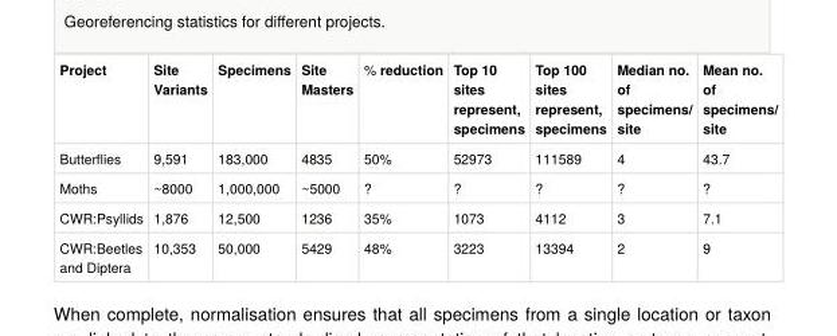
<table><tbody><tr><td>Project</td><td>Site Variants</td><td>Specimens</td><td>Site Masters</td><td>% reduction</td><td>Top 10 sites represent, specimens</td><td>Top 100 sites represent, specimens</td><td>Median no. of specimens/ site</td><td>Mean no. of specimens/ site</td></tr><tr><td>Butterflies</td><td>9,591</td><td>183,000</td><td>4835</td><td>50%</td><td>52973</td><td>111589</td><td>4</td><td>43.7</td></tr><tr><td>Moths</td><td>~8000</td><td>1,000,000</td><td>~5000</td><td>?</td><td>?</td><td>?</td><td>?</td><td>?</td></tr><tr><td>CWR:Psyllids</td><td>1,876</td><td>12,500</td><td>1236</td><td>35%</td><td>1073</td><td>4112</td><td>3</td><td>7.1</td></tr><tr><td>CWR:Beetles and Diptera</td><td>10,353</td><td>50,000</td><td>5429</td><td>48%</td><td>3223</td><td>13394</td><td>2</td><td>9</td></tr></tbody></table>